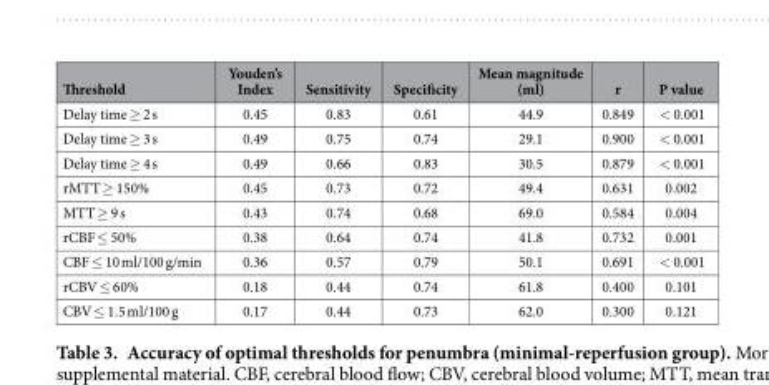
<table><thead><tr><td>Threshold</td><td>Youden’s Index</td><td>Sensitivity</td><td>Specificity</td><td>Mean magnitude (ml)</td><td>r</td><td>P value</td></tr></thead><tbody><tr><td>Delay time ≥ 2 s</td><td>0.45</td><td>0.83</td><td>0.61</td><td>44.9</td><td>0.849</td><td>&lt; 0.001</td></tr><tr><td>Delay time ≥ 3 s</td><td>0.49</td><td>0.75</td><td>0.74</td><td>29.1</td><td>0.900</td><td>&lt; 0.001</td></tr><tr><td>Delay time ≥ 4 s</td><td>0.49</td><td>0.66</td><td>0.83</td><td>30.5</td><td>0.879</td><td>&lt; 0.001</td></tr><tr><td>rMTT ≥ 150%</td><td>0.45</td><td>0.73</td><td>0.72</td><td>49.4</td><td>0.631</td><td>0.002</td></tr><tr><td>MTT ≥ 9 s</td><td>0.43</td><td>0.74</td><td>0.68</td><td>69.0</td><td>0.584</td><td>0.004</td></tr><tr><td>rCBF ≤ 50%</td><td>0.38</td><td>0.64</td><td>0.74</td><td>41.8</td><td>0.732</td><td>0.001</td></tr><tr><td>CBF ≤ 10 ml/100 g/min</td><td>0.36</td><td>0.57</td><td>0.79</td><td>50.1</td><td>0.691</td><td>&lt; 0.001</td></tr><tr><td>rCBV ≤ 60%</td><td>0.18</td><td>0.44</td><td>0.74</td><td>61.8</td><td>0.400</td><td>0.101</td></tr><tr><td>CBV ≤ 1.5 ml/100 g</td><td>0.17</td><td>0.44</td><td>0.73</td><td>62.0</td><td>0.300</td><td>0.121</td></tr></tbody></table>